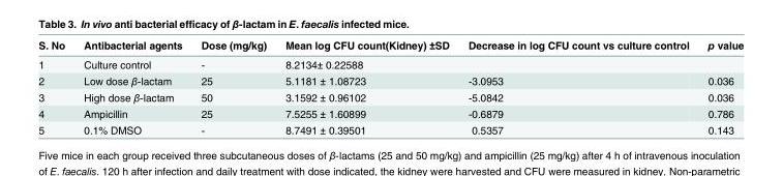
<table><thead><tr><td>S. No</td><td>Antibacterial agents</td><td>Dose (mg/kg)</td><td>Mean log CFU count(Kidney) ±SD</td><td>Decrease in log CFU count vs culture control</td><td>p value</td></tr></thead><tbody><tr><td>1</td><td>Culture control</td><td>-</td><td>8.2134± 0.22588</td><td></td><td></td></tr><tr><td>2</td><td>Low dose β-lactam</td><td>25</td><td>5.1181 ± 1.08723</td><td>-3.0953</td><td>0.036</td></tr><tr><td>3</td><td>High dose β-lactam</td><td>50</td><td>3.1592 ± 0.96102</td><td>-5.0842</td><td>0.036</td></tr><tr><td>4</td><td>Ampicillin</td><td>25</td><td>7.5255 ± 1.60899</td><td>-0.6879</td><td>0.786</td></tr><tr><td>5</td><td>0.1% DMSO</td><td>-</td><td>8.7491 ± 0.39501</td><td>0.5357</td><td>0.143</td></tr></tbody></table>